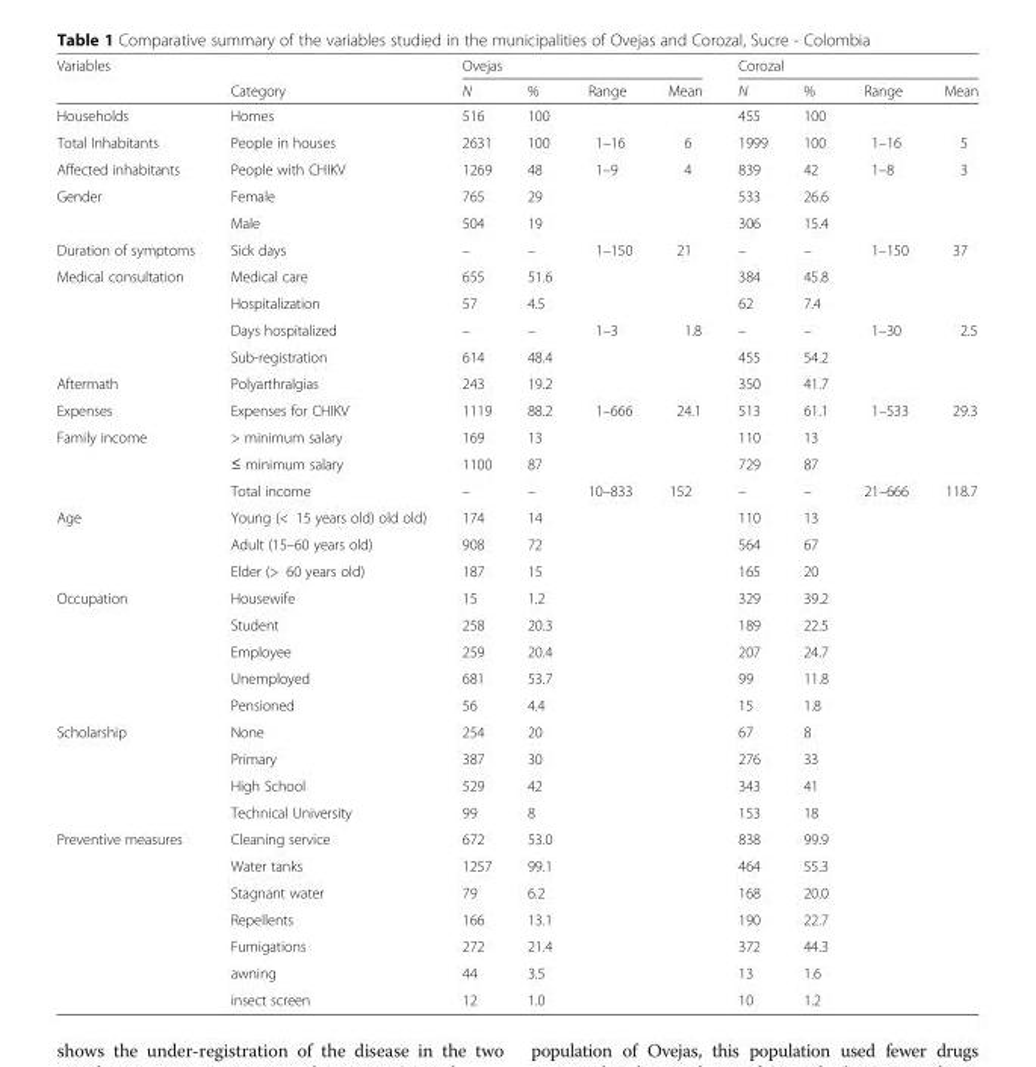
<table><thead><tr><td rowspan="2">Variables</td><td rowspan="2">Category</td><td colspan="4">Ovejas</td><td colspan="4">Corozal</td></tr><tr><td>N</td><td>%</td><td>Range</td><td>Mean</td><td>N</td><td>%</td><td>Range</td><td>Mean</td></tr></thead><tbody><tr><td>Households</td><td>Homes</td><td>516</td><td>100</td><td></td><td></td><td>455</td><td>100</td><td></td><td></td></tr><tr><td>Total Inhabitants</td><td>People in houses</td><td>2631</td><td>100</td><td>1–16</td><td>6</td><td>1999</td><td>100</td><td>1–16</td><td>5</td></tr><tr><td>Affected inhabitants</td><td>People with CHIKV</td><td>1269</td><td>48</td><td>1–9</td><td>4</td><td>839</td><td>42</td><td>1–8</td><td>3</td></tr><tr><td rowspan="2">Gender</td><td>Female</td><td>765</td><td>29</td><td></td><td></td><td>533</td><td>26.6</td><td></td><td></td></tr><tr><td>Male</td><td>504</td><td>19</td><td></td><td></td><td>306</td><td>15.4</td><td></td><td></td></tr><tr><td>Duration of symptoms</td><td>Sick days</td><td>–</td><td>–</td><td>1–150</td><td>21</td><td>–</td><td>–</td><td>1–150</td><td>37</td></tr><tr><td rowspan="4">Medical consultation</td><td>Medical care</td><td>655</td><td>51.6</td><td></td><td></td><td>384</td><td>45.8</td><td></td><td></td></tr><tr><td>Hospitalization</td><td>57</td><td>4.5</td><td></td><td></td><td>62</td><td>7.4</td><td></td><td></td></tr><tr><td>Days hospitalized</td><td>–</td><td>–</td><td>1–3</td><td>1.8</td><td>–</td><td>–</td><td>1–30</td><td>2.5</td></tr><tr><td>Sub-registration</td><td>614</td><td>48.4</td><td></td><td></td><td>455</td><td>54.2</td><td></td><td></td></tr><tr><td>Aftermath</td><td>Polyarthralgias</td><td>243</td><td>19.2</td><td></td><td></td><td>350</td><td>41.7</td><td></td><td></td></tr><tr><td>Expenses</td><td>Expenses for CHIKV</td><td>1119</td><td>88.2</td><td>1–666</td><td>24.1</td><td>513</td><td>61.1</td><td>1–533</td><td>29.3</td></tr><tr><td rowspan="3">Family income</td><td>&gt; minimum salary</td><td>169</td><td>13</td><td></td><td></td><td>110</td><td>13</td><td></td><td></td></tr><tr><td>≤ minimum salary</td><td>1100</td><td>87</td><td></td><td></td><td>729</td><td>87</td><td></td><td></td></tr><tr><td>Total income</td><td>–</td><td>–</td><td>10–833</td><td>152</td><td>–</td><td>–</td><td>21–666</td><td>118.7</td></tr><tr><td rowspan="3">Age</td><td>Young (&lt; 15 years old) old old)</td><td>174</td><td>14</td><td></td><td></td><td>110</td><td>13</td><td></td><td></td></tr><tr><td>Adult (15–60 years old)</td><td>908</td><td>72</td><td></td><td></td><td>564</td><td>67</td><td></td><td></td></tr><tr><td>Elder (&gt; 60 years old)</td><td>187</td><td>15</td><td></td><td></td><td>165</td><td>20</td><td></td><td></td></tr><tr><td rowspan="5">Occupation</td><td>Housewife</td><td>15</td><td>1.2</td><td></td><td></td><td>329</td><td>39.2</td><td></td><td></td></tr><tr><td>Student</td><td>258</td><td>20.3</td><td></td><td></td><td>189</td><td>22.5</td><td></td><td></td></tr><tr><td>Employee</td><td>259</td><td>20.4</td><td></td><td></td><td>207</td><td>24.7</td><td></td><td></td></tr><tr><td>Unemployed</td><td>681</td><td>53.7</td><td></td><td></td><td>99</td><td>11.8</td><td></td><td></td></tr><tr><td>Pensioned</td><td>56</td><td>4.4</td><td></td><td></td><td>15</td><td>1.8</td><td></td><td></td></tr><tr><td rowspan="4">Scholarship</td><td>None</td><td>254</td><td>20</td><td></td><td></td><td>67</td><td>8</td><td></td><td></td></tr><tr><td>Primary</td><td>387</td><td>30</td><td></td><td></td><td>276</td><td>33</td><td></td><td></td></tr><tr><td>High School</td><td>529</td><td>42</td><td></td><td></td><td>343</td><td>41</td><td></td><td></td></tr><tr><td>Technical University</td><td>99</td><td>8</td><td></td><td></td><td>153</td><td>18</td><td></td><td></td></tr><tr><td rowspan="7">Preventive measures</td><td>Cleaning service</td><td>672</td><td>53.0</td><td></td><td></td><td>838</td><td>99.9</td><td></td><td></td></tr><tr><td>Water tanks</td><td>1257</td><td>99.1</td><td></td><td></td><td>464</td><td>55.3</td><td></td><td></td></tr><tr><td>Stagnant water</td><td>79</td><td>6.2</td><td></td><td></td><td>168</td><td>20.0</td><td></td><td></td></tr><tr><td>Repellents</td><td>166</td><td>13.1</td><td></td><td></td><td>190</td><td>22.7</td><td></td><td></td></tr><tr><td>Fumigations</td><td>272</td><td>21.4</td><td></td><td></td><td>372</td><td>44.3</td><td></td><td></td></tr><tr><td>awning</td><td>44</td><td>3.5</td><td></td><td></td><td>13</td><td>1.6</td><td></td><td></td></tr><tr><td>insect screen</td><td>12</td><td>1.0</td><td></td><td></td><td>10</td><td>1.2</td><td></td><td></td></tr></tbody></table>